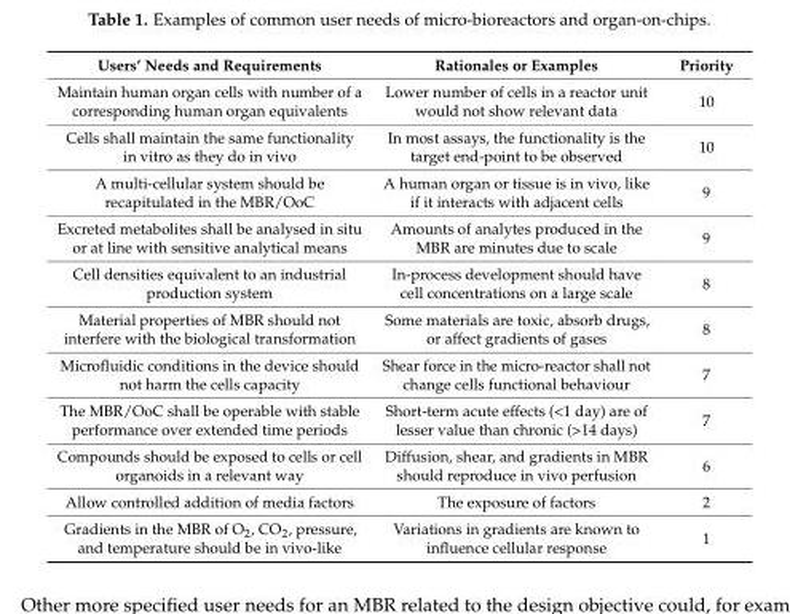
<table><thead><tr><td>Users’ Needs and Requirements</td><td>Rationales or Examples</td><td>Priority</td></tr></thead><tbody><tr><td>Maintain human organ cells with number of a corresponding human organ equivalents</td><td>Lower number of cells in a reactor unit would not show relevant data</td><td>10</td></tr><tr><td>Cells shall maintain the same functionality in vitro as they do in vivo</td><td>In most assays, the functionality is the target end-point to be observed</td><td>10</td></tr><tr><td>A multi-cellular system should be recapitulated in the MBR/OoC</td><td>A human organ or tissue is in vivo, like if it interacts with adjacent cells</td><td>9</td></tr><tr><td>Excreted metabolites shall be analysed in situ or at line with sensitive analytical means</td><td>Amounts of analytes produced in the MBR are minutes due to scale</td><td>9</td></tr><tr><td>Cell densities equivalent to an industrial production system</td><td>In-process development should have cell concentrations on a large scale</td><td>8</td></tr><tr><td>Material properties of MBR should not interfere with the biological transformation</td><td>Some materials are toxic, absorb drugs, or affect gradients of gases</td><td>8</td></tr><tr><td>Microfluidic conditions in the device should not harm the cells capacity</td><td>Shear force in the micro-reactor shall not change cells functional behaviour</td><td>7</td></tr><tr><td>The MBR/OoC shall be operable with stable performance over extended time periods</td><td>Short-term acute effects (&lt;1 day) are of lesser value than chronic (&gt;14 days)</td><td>7</td></tr><tr><td>Compounds should be exposed to cells or cell organoids in a relevant way</td><td>Diffusion, shear, and gradients in MBR should reproduce in vivo perfusion</td><td>6</td></tr><tr><td>Allow controlled addition of media factors</td><td>The exposure of factors</td><td>2</td></tr><tr><td>Gradients in the MBR of O<sub>2</sub>, CO<sub>2</sub>, pressure, and temperature should be in vivo-like</td><td>Variations in gradients are known to influence cellular response</td><td>1</td></tr></tbody></table>